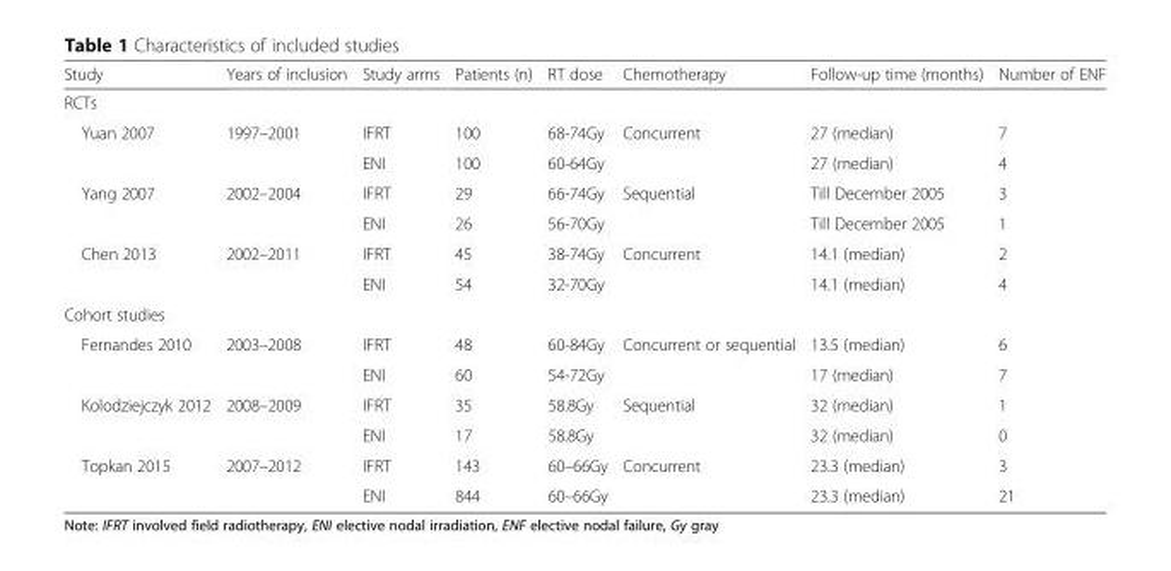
<table><thead><tr><td>Study</td><td>Years of inclusion</td><td>Study arms</td><td>Patients (n)</td><td>RT dose</td><td>Chemotherapy</td><td>Follow-up time (months)</td><td>Number of ENF</td></tr></thead><tbody><tr><td colspan="8">RCTs</td></tr><tr><td rowspan="2">Yuan 2007</td><td>1997–2001</td><td>IFRT</td><td>100</td><td>68-74Gy</td><td>Concurrent</td><td>27 (median)</td><td>7</td></tr><tr><td></td><td>ENI</td><td>100</td><td>60-64Gy</td><td></td><td>27 (median)</td><td>4</td></tr><tr><td rowspan="2">Yang 2007</td><td>2002–2004</td><td>IFRT</td><td>29</td><td>66-74Gy</td><td>Sequential</td><td>Till December 2005</td><td>3</td></tr><tr><td></td><td>ENI</td><td>26</td><td>56-70Gy</td><td></td><td>Till December 2005</td><td>1</td></tr><tr><td rowspan="2">Chen 2013</td><td>2002–2011</td><td>IFRT</td><td>45</td><td>38-74Gy</td><td>Concurrent</td><td>14.1 (median)</td><td>2</td></tr><tr><td></td><td>ENI</td><td>54</td><td>32-70Gy</td><td></td><td>14.1 (median)</td><td>4</td></tr><tr><td colspan="8">Cohort studies</td></tr><tr><td rowspan="2">Fernandes 2010</td><td>2003–2008</td><td>IFRT</td><td>48</td><td>60-84Gy</td><td>Concurrent or sequential</td><td>13.5 (median)</td><td>6</td></tr><tr><td></td><td>ENI</td><td>60</td><td>54-72Gy</td><td></td><td>17 (median)</td><td>7</td></tr><tr><td rowspan="2">Kolodziejczyk 2012</td><td>2008–2009</td><td>IFRT</td><td>35</td><td>58.8Gy</td><td>Sequential</td><td>32 (median)</td><td>1</td></tr><tr><td></td><td>ENI</td><td>17</td><td>58.8Gy</td><td></td><td>32 (median)</td><td>0</td></tr><tr><td rowspan="2">Topkan 2015</td><td>2007–2012</td><td>IFRT</td><td>143</td><td>60–66Gy</td><td>Concurrent</td><td>23.3 (median)</td><td>3</td></tr><tr><td></td><td>ENI</td><td>844</td><td>60–66Gy</td><td></td><td>23.3 (median)</td><td>21</td></tr></tbody></table>